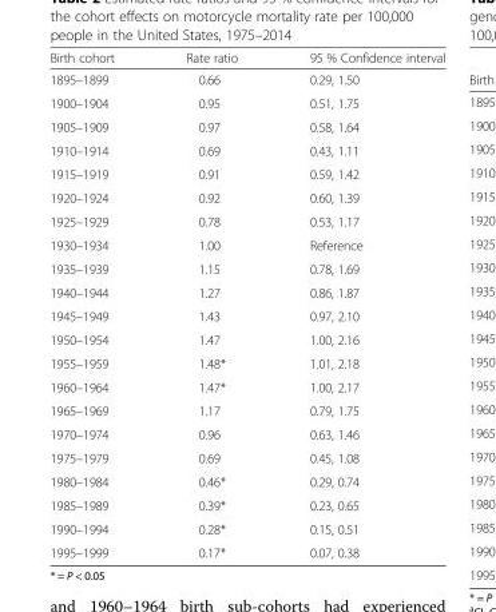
<table><thead><tr><td>Birth cohort</td><td>Rate ratio</td><td>95 % Confidence interval</td></tr></thead><tbody><tr><td>1895–1899</td><td>0.66</td><td>0.29, 1.50</td></tr><tr><td>1900–1904</td><td>0.95</td><td>0.51, 1.75</td></tr><tr><td>1905–1909</td><td>0.97</td><td>0.58, 1.64</td></tr><tr><td>1910–1914</td><td>0.69</td><td>0.43, 1.11</td></tr><tr><td>1915–1919</td><td>0.91</td><td>0.59, 1.42</td></tr><tr><td>1920–1924</td><td>0.92</td><td>0.60, 1.39</td></tr><tr><td>1925–1929</td><td>0.78</td><td>0.53, 1.17</td></tr><tr><td>1930–1934</td><td>1.00</td><td>Reference</td></tr><tr><td>1935–1939</td><td>1.15</td><td>0.78, 1.69</td></tr><tr><td>1940–1944</td><td>1.27</td><td>0.86, 1.87</td></tr><tr><td>1945–1949</td><td>1.43</td><td>0.97, 2.10</td></tr><tr><td>1950–1954</td><td>1.47</td><td>1.00, 2.16</td></tr><tr><td>1955–1959</td><td>1.48*</td><td>1.01, 2.18</td></tr><tr><td>1960–1964</td><td>1.47*</td><td>1.00, 2.17</td></tr><tr><td>1965–1969</td><td>1.17</td><td>0.79, 1.75</td></tr><tr><td>1970–1974</td><td>0.96</td><td>0.63, 1.46</td></tr><tr><td>1975–1979</td><td>0.69</td><td>0.45, 1.08</td></tr><tr><td>1980–1984</td><td>0.46*</td><td>0.29, 0.74</td></tr><tr><td>1985–1989</td><td>0.39*</td><td>0.23, 0.65</td></tr><tr><td>1990–1994</td><td>0.28*</td><td>0.15, 0.51</td></tr><tr><td>1995–1999</td><td>0.17*</td><td>0.07, 0.38</td></tr></tbody></table>